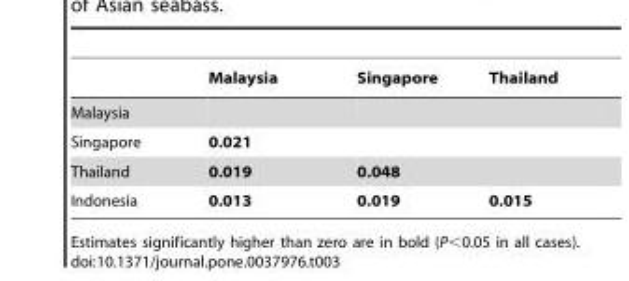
<table><thead><tr><td></td><td>Malaysia</td><td>Singapore</td><td>Thailand</td></tr></thead><tbody><tr><td colspan="4">Malaysia</td></tr><tr><td>Singapore</td><td>0.021</td><td></td><td></td></tr><tr><td>Thailand</td><td>0.019</td><td>0.048</td><td></td></tr><tr><td>Indonesia</td><td>0.013</td><td>0.019</td><td>0.015</td></tr></tbody></table>